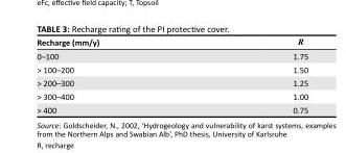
<table><thead><tr><td>Recharge (mm/y)</td><td>R</td></tr></thead><tbody><tr><td>0–100</td><td>1.75</td></tr><tr><td>&gt; 100–200</td><td>1.50</td></tr><tr><td>&gt; 200–300</td><td>1.25</td></tr><tr><td>&gt; 300–400</td><td>1.00</td></tr><tr><td>&gt; 400</td><td>0.75</td></tr></tbody></table>